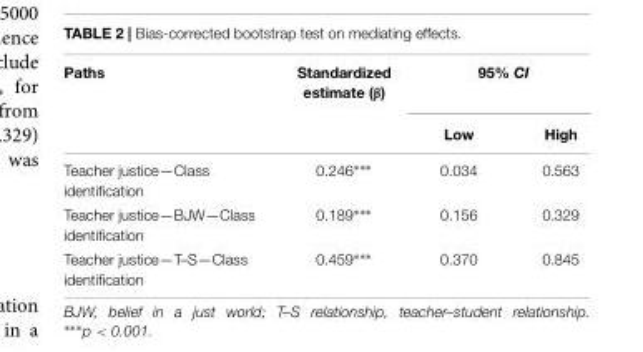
<table><thead><tr><td rowspan="2">Paths</td><td rowspan="2">Standardized estimate (β)</td><td colspan="2">95% CI</td></tr><tr><td>Low</td><td>High</td></tr></thead><tbody><tr><td>Teacher justice—Class identification</td><td>0.246∗∗∗</td><td>0.034</td><td>0.563</td></tr><tr><td>Teacher justice—BJW—Class identification</td><td>0.189∗∗∗</td><td>0.156</td><td>0.329</td></tr><tr><td>Teacher justice—T–S—Class identification</td><td>0.459∗∗∗</td><td>0.370</td><td>0.845</td></tr></tbody></table>